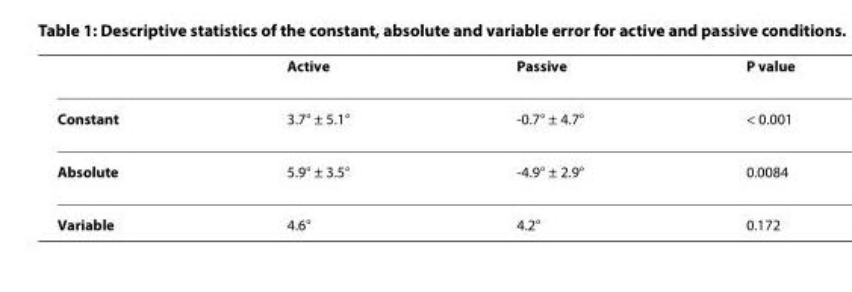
<table><thead><tr><td></td><td>Active</td><td>Passive</td><td>P value</td></tr></thead><tbody><tr><td>Constant</td><td>3.7° ± 5.1°</td><td>-0.7° ± 4.7°</td><td>&lt; 0.001</td></tr><tr><td>Absolute</td><td>5.9° ± 3.5°</td><td>-4.9° ± 2.9°</td><td>0.0084</td></tr><tr><td>Variable</td><td>4.6°</td><td>4.2°</td><td>0.172</td></tr></tbody></table>